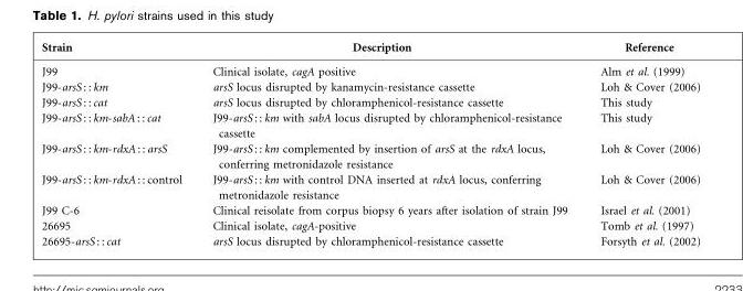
<table><thead><tr><td>Strain</td><td>Description</td><td>Reference</td></tr></thead><tbody><tr><td>J99</td><td>Clinical isolate, cagA positive</td><td>Alm et al. (1999)</td></tr><tr><td>J99-arsS : : km</td><td>arsS locus disrupted by kanamycin-resistance cassette</td><td>Loh &amp; Cover (2006)</td></tr><tr><td>J99-arsS : : cat</td><td>arsS locus disrupted by chloramphenicol-resistance cassette</td><td>This study</td></tr><tr><td>J99-arsS : : km-sabA : : cat</td><td>J99-arsS : : km with sabA locus disrupted by chloramphenicol-resistance cassette</td><td>This study</td></tr><tr><td>J99-arsS : : km-rdxA : : arsS</td><td>J99-arsS : : km complemented by insertion of arsS at the rdxA locus, conferring metronidazole resistance</td><td>Loh &amp; Cover (2006)</td></tr><tr><td>J99-arsS : : km-rdxA : : control</td><td>J99-arsS : : km with control DNA inserted at rdxA locus, conferring metronidazole resistance</td><td>Loh &amp; Cover (2006)</td></tr><tr><td>J99 C-6</td><td>Clinical reisolate from corpus biopsy 6 years after isolation of strain J99</td><td>Israel et al. (2001)</td></tr><tr><td>26695</td><td>Clinical isolate, cagA-positive</td><td>Tomb et al. (1997)</td></tr><tr><td>26695-arsS : : cat</td><td>arsS locus disrupted by chloramphenicol-resistance cassette</td><td>Forsyth et al. (2002)</td></tr></tbody></table>